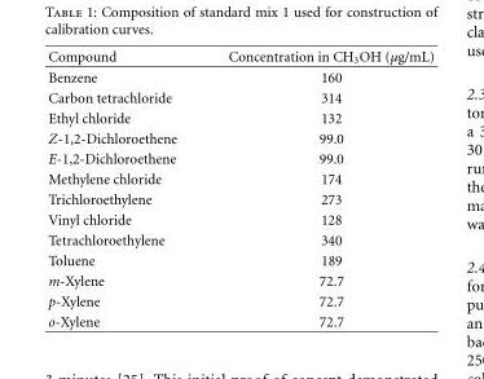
<table><thead><tr><td>Compound</td><td>Concentration in CH<sub>3</sub>OH (μg/mL)</td></tr></thead><tbody><tr><td>Benzene</td><td>160</td></tr><tr><td>Carbon tetrachloride</td><td>314</td></tr><tr><td>Ethyl chloride</td><td>132</td></tr><tr><td>Z-1,2-Dichloroethene</td><td>99.0</td></tr><tr><td>E-1,2-Dichloroethene</td><td>99.0</td></tr><tr><td>Methylene chloride</td><td>174</td></tr><tr><td>Trichloroethylene</td><td>273</td></tr><tr><td>Vinyl chloride</td><td>128</td></tr><tr><td>Tetrachloroethylene</td><td>340</td></tr><tr><td>Toluene</td><td>189</td></tr><tr><td>m-Xylene</td><td>72.7</td></tr><tr><td>p-Xylene</td><td>72.7</td></tr><tr><td>o-Xylene</td><td>72.7</td></tr></tbody></table>